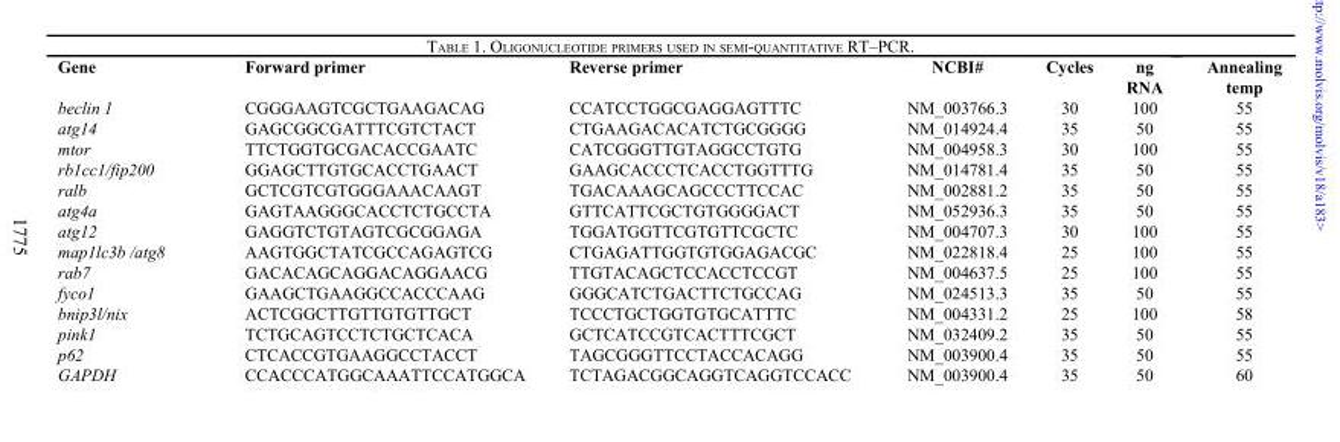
<table><thead><tr><td>Gene</td><td>Forward primer</td><td>Reverse primer</td><td>NCBI#</td><td>Cycles</td><td>ng RNA</td><td>Annealing temp</td></tr></thead><tbody><tr><td>beclin 1</td><td>CGGGAAGTCGCTGAAGACAG</td><td>CCATCCTGGCGAGGAGTTTC</td><td>NM_003766.3</td><td>30</td><td>100</td><td>55</td></tr><tr><td>atg14</td><td>GAGCGGCGATTTCGTCTACT</td><td>CTGAAGACACATCTGCGGGG</td><td>NM_014924.4</td><td>35</td><td>50</td><td>55</td></tr><tr><td>mtor</td><td>TTCTGGTGCGACACCGAATC</td><td>CATCGGGTTGTAGGCCTGTG</td><td>NM_004958.3</td><td>30</td><td>100</td><td>55</td></tr><tr><td>rb1cc1/fip200</td><td>GGAGCTTGTGCACCTGAACT</td><td>GAAGCACCCTCACCTGGTTTG</td><td>NM_014781.4</td><td>35</td><td>50</td><td>55</td></tr><tr><td>ralb</td><td>GCTCGTCGTGGGAAACAAGT</td><td>TGACAAAGCAGCCCTTCCAC</td><td>NM_002881.2</td><td>35</td><td>50</td><td>55</td></tr><tr><td>atg4a</td><td>GAGTAAGGGCACCTCTGCCTA</td><td>GTTCATTCGCTGTGGGGACT</td><td>NM_052936.3</td><td>35</td><td>50</td><td>55</td></tr><tr><td>atg12</td><td>GAGGTCTGTAGTCGCGGAGA</td><td>TGGATGGTTCGTGTTCGCTC</td><td>NM_004707.3</td><td>30</td><td>100</td><td>55</td></tr><tr><td>map1lc3b /atg8</td><td>AAGTGGCTATCGCCAGAGTCG</td><td>CTGAGATTGGTGTGGAGACGC</td><td>NM_022818.4</td><td>25</td><td>100</td><td>55</td></tr><tr><td>rab7</td><td>GACACAGCAGGACAGGAACG</td><td>TTGTACAGCTCCACCTCCGT</td><td>NM_004637.5</td><td>25</td><td>100</td><td>55</td></tr><tr><td>fyco1</td><td>GAAGCTGAAGGCCACCCAAG</td><td>GGGCATCTGACTTCTGCCAG</td><td>NM_024513.3</td><td>35</td><td>50</td><td>55</td></tr><tr><td>bnip3l/nix</td><td>ACTCGGCTTGTTGTGTTGCT</td><td>TCCCTGCTGGTGTGCATTTC</td><td>NM_004331.2</td><td>25</td><td>100</td><td>58</td></tr><tr><td>pink1</td><td>TCTGCAGTCCTCTGCTCACA</td><td>GCTCATCCGTCACTTTCGCT</td><td>NM_032409.2</td><td>35</td><td>50</td><td>55</td></tr><tr><td>p62</td><td>CTCACCGTGAAGGCCTACCT</td><td>TAGCGGGTTCCTACCACAGG</td><td>NM_003900.4</td><td>35</td><td>50</td><td>55</td></tr><tr><td>GAPDH</td><td>CCACCCATGGCAAATTCCATGGCA</td><td>TCTAGACGGCAGGTCAGGTCCACC</td><td>NM_003900.4</td><td>35</td><td>50</td><td>60</td></tr></tbody></table>